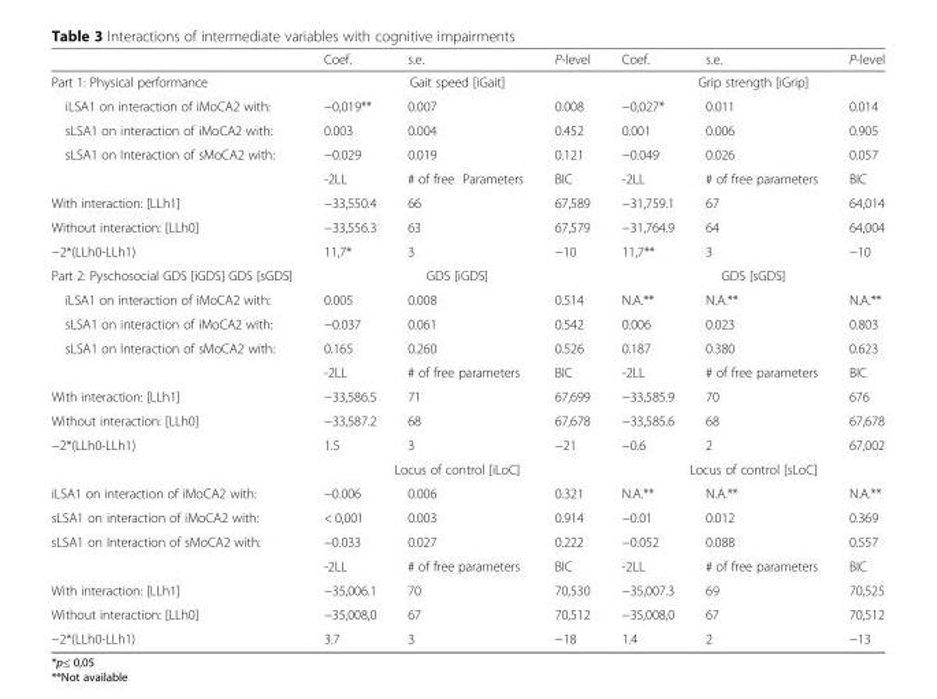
<table><thead><tr><td></td><td>Coef.</td><td>s.e.</td><td>P-level</td><td>Coef.</td><td>s.e.</td><td>P-level</td></tr></thead><tbody><tr><td>Part 1: Physical performance</td><td colspan="3">Gait speed [iGait]</td><td colspan="3">Grip strength [iGrip]</td></tr><tr><td>iLSA1 on interaction of iMoCA2 with:</td><td>−0,019**</td><td>0.007</td><td>0.008</td><td>−0,027*</td><td>0.011</td><td>0.014</td></tr><tr><td>sLSA1 on interaction of iMoCA2 with:</td><td>0.003</td><td>0.004</td><td>0.452</td><td>0.001</td><td>0.006</td><td>0.905</td></tr><tr><td rowspan="2">sLSA1 on Interaction of sMoCA2 with:</td><td>−0.029</td><td>0.019</td><td>0.121</td><td>−0.049</td><td>0.026</td><td>0.057</td></tr><tr><td>-2LL</td><td># of free Parameters</td><td>BIC</td><td>-2LL</td><td># of free parameters</td><td>BIC</td></tr><tr><td>With interaction: [LLh1]</td><td>−33,550.4</td><td>66</td><td>67,589</td><td>−31,759.1</td><td>67</td><td>64,014</td></tr><tr><td>Without interaction: [LLh0]</td><td>−33,556.3</td><td>63</td><td>67,579</td><td>−31,764.9</td><td>64</td><td>64,004</td></tr><tr><td>−2*(LLh0-LLh1)</td><td>11,7*</td><td>3</td><td>−10</td><td>11,7**</td><td>3</td><td>−10</td></tr><tr><td>Part 2: Pyschosocial GDS [iGDS] GDS [sGDS]</td><td colspan="3">GDS [iGDS]</td><td colspan="3">GDS [sGDS]</td></tr><tr><td>iLSA1 on interaction of iMoCA2 with:</td><td>0.005</td><td>0.008</td><td>0.514</td><td>N.A.**</td><td>N.A.**</td><td>N.A.**</td></tr><tr><td>sLSA1 on interaction of iMoCA2 with:</td><td>−0.037</td><td>0.061</td><td>0.542</td><td>0.006</td><td>0.023</td><td>0.803</td></tr><tr><td rowspan="2">sLSA1 on Interaction of sMoCA2 with:</td><td>0.165</td><td>0.260</td><td>0.526</td><td>0.187</td><td>0.380</td><td>0.623</td></tr><tr><td>-2LL</td><td># of free parameters</td><td>BIC</td><td>-2LL</td><td># of free parameters</td><td>BIC</td></tr><tr><td>With interaction: [LLh1]</td><td>−33,586.5</td><td>71</td><td>67,699</td><td>−33,585.9</td><td>70</td><td>676</td></tr><tr><td>Without interaction: [LLh0]</td><td>−33,587.2</td><td>68</td><td>67,678</td><td>−33,585.6</td><td>68</td><td>67,678</td></tr><tr><td rowspan="2">−2*(LLh0-LLh1)</td><td>1.5</td><td>3</td><td>−21</td><td>−0.6</td><td>2</td><td>67,002</td></tr><tr><td colspan="3">Locus of control [iLoC]</td><td colspan="3">Locus of control [sLoC]</td></tr><tr><td>iLSA1 on interaction of iMoCA2 with:</td><td>−0.006</td><td>0.006</td><td>0.321</td><td>N.A.**</td><td>N.A.**</td><td>N.A.**</td></tr><tr><td>sLSA1 on interaction of iMoCA2 with:</td><td>&lt; 0,001</td><td>0.003</td><td>0.914</td><td>−0.01</td><td>0.012</td><td>0.369</td></tr><tr><td rowspan="2">sLSA1 on Interaction of sMoCA2 with:</td><td>−0.033</td><td>0.027</td><td>0.222</td><td>−0.052</td><td>0.088</td><td>0.557</td></tr><tr><td>-2LL</td><td># of free parameters</td><td>BIC</td><td>-2LL</td><td># of free parameters</td><td>BIC</td></tr><tr><td>With interaction: [LLh1]</td><td>−35,006.1</td><td>70</td><td>70,530</td><td>−35,007.3</td><td>69</td><td>70,525</td></tr><tr><td>Without interaction: [LLh0]</td><td>−35,008,0</td><td>67</td><td>70,512</td><td>−35,008,0</td><td>67</td><td>70,512</td></tr><tr><td>−2*(LLh0-LLh1)</td><td>3.7</td><td>3</td><td>−18</td><td>1.4</td><td>2</td><td>−13</td></tr></tbody></table>